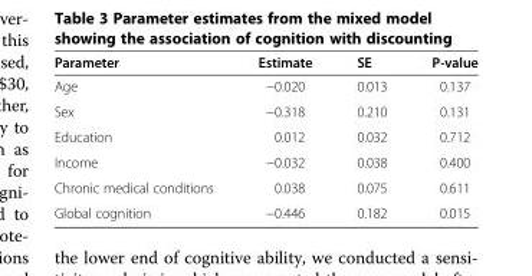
<table><thead><tr><td>Parameter</td><td>Estimate</td><td>SE</td><td>P-value</td></tr></thead><tbody><tr><td>Age</td><td>−0.020</td><td>0.013</td><td>0.137</td></tr><tr><td>Sex</td><td>−0.318</td><td>0.210</td><td>0.131</td></tr><tr><td>Education</td><td>0.012</td><td>0.032</td><td>0.712</td></tr><tr><td>Income</td><td>−0.032</td><td>0.038</td><td>0.400</td></tr><tr><td>Chronic medical conditions</td><td>0.038</td><td>0.075</td><td>0.611</td></tr><tr><td>Global cognition</td><td>−0.446</td><td>0.182</td><td>0.015</td></tr></tbody></table>